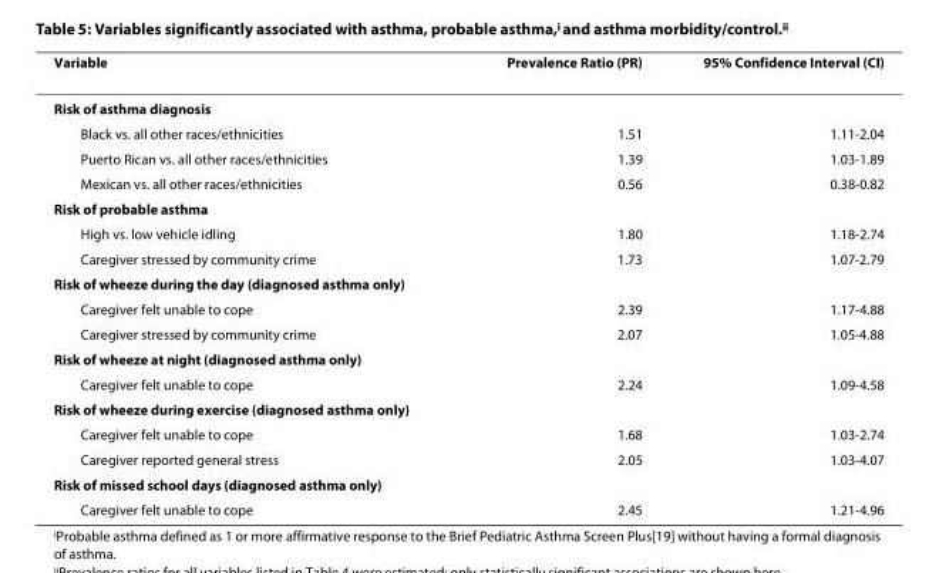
<table><thead><tr><td>Variable</td><td>Prevalence Ratio (PR)</td><td>95% Confidence Interval (CI)</td></tr></thead><tbody><tr><td colspan="3">Risk of asthma diagnosis</td></tr><tr><td>Black vs. all other races/ethnicities</td><td>1.51</td><td>1.11-2.04</td></tr><tr><td>Puerto Rican vs. all other races/ethnicities</td><td>1.39</td><td>1.03-1.89</td></tr><tr><td>Mexican vs. all other races/ethnicities</td><td>0.56</td><td>0.38-0.82</td></tr><tr><td colspan="3">Risk of probable asthma</td></tr><tr><td>High vs. low vehicle idling</td><td>1.80</td><td>1.18-2.74</td></tr><tr><td>Caregiver stressed by community crime</td><td>1.73</td><td>1.07-2.79</td></tr><tr><td colspan="3">Risk of wheeze during the day (diagnosed asthma only)</td></tr><tr><td>Caregiver felt unable to cope</td><td>2.39</td><td>1.17-4.88</td></tr><tr><td>Caregiver stressed by community crime</td><td>2.07</td><td>1.05-4.88</td></tr><tr><td colspan="3">Risk of wheeze at night (diagnosed asthma only)</td></tr><tr><td>Caregiver felt unable to cope</td><td>2.24</td><td>1.09-4.58</td></tr><tr><td colspan="3">Risk of wheeze during exercise (diagnosed asthma only)</td></tr><tr><td>Caregiver felt unable to cope</td><td>1.68</td><td>1.03-2.74</td></tr><tr><td>Caregiver reported general stress</td><td>2.05</td><td>1.03-4.07</td></tr><tr><td colspan="3">Risk of missed school days (diagnosed asthma only)</td></tr><tr><td>Caregiver felt unable to cope</td><td>2.45</td><td>1.21-4.96</td></tr></tbody></table>